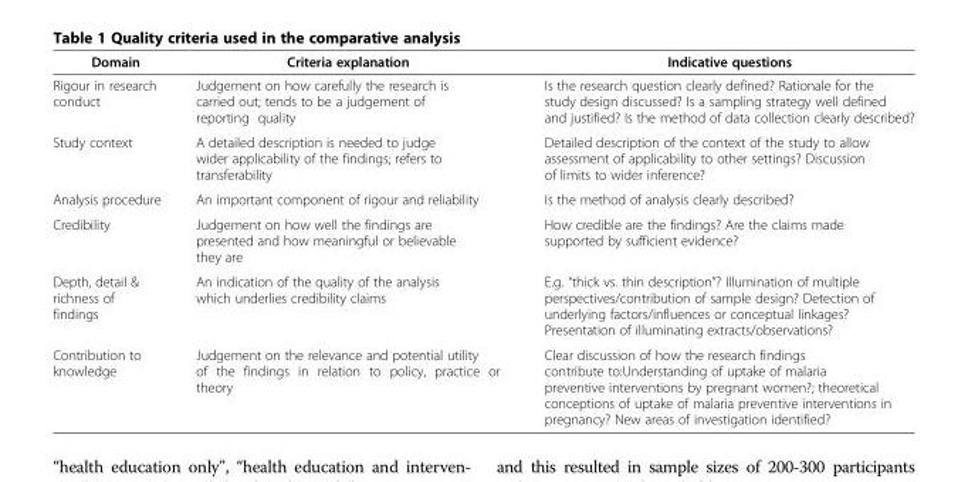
<table><thead><tr><td>Domain</td><td>Criteria explanation</td><td>Indicative questions</td></tr></thead><tbody><tr><td>Rigour in research conduct</td><td>Judgement on how carefully the research is carried out; tends to be a judgement of reporting quality</td><td>Is the research question clearly defined? Rationale for the study design discussed? Is a sampling strategy well defined and justified? Is the method of data collection clearly described?</td></tr><tr><td>Study context</td><td>A detailed description is needed to judge wider applicability of the findings; refers to transferability</td><td>Detailed description of the context of the study to allow assessment of applicability to other settings? Discussion of limits to wider inference?</td></tr><tr><td>Analysis procedure</td><td>An important component of rigour and reliability</td><td>Is the method of analysis clearly described?</td></tr><tr><td>Credibility</td><td>Judgement on how well the findings are presented and how meaningful or believable they are</td><td>How credible are the findings? Are the claims made supported by sufficient evidence?</td></tr><tr><td>Depth, detail &amp; richness of findings</td><td>An indication of the quality of the analysis which underlies credibility claims</td><td>E.g. “thick vs. thin description”? Illumination of multiple perspectives/contribution of sample design? Detection of underlying factors/influences or conceptual linkages? Presentation of illuminating extracts/observations?</td></tr><tr><td>Contribution to knowledge</td><td>Judgement on the relevance and potential utility of the findings in relation to policy, practice or theory</td><td>Clear discussion of how the research findings contribute to:Understanding of uptake of malaria preventive interventions by pregnant women?; theoretical conceptions of uptake of malaria preventive interventions in pregnancy? New areas of investigation identified?</td></tr></tbody></table>